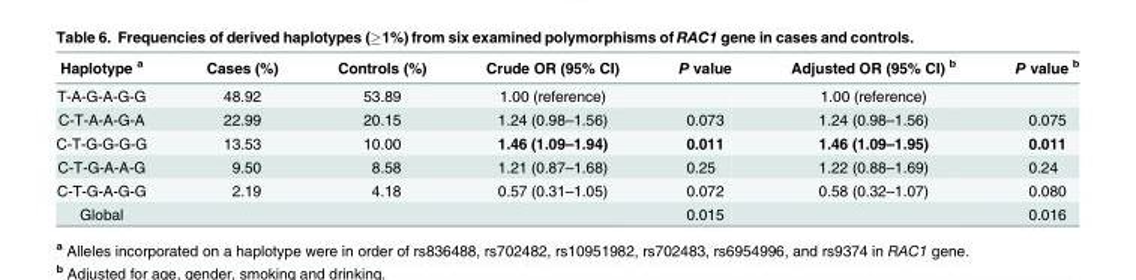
<table><thead><tr><td>Haplotype <sup>a</sup></td><td>Cases (%)</td><td>Controls (%)</td><td>Crude OR (95% CI)</td><td>P value</td><td>Adjusted OR (95% CI) <sup>b</sup></td><td>P value <sup>b</sup></td></tr></thead><tbody><tr><td>T-A-G-A-G-G</td><td>48.92</td><td>53.89</td><td>1.00 (reference)</td><td></td><td>1.00 (reference)</td><td></td></tr><tr><td>C-T-A-A-G-A</td><td>22.99</td><td>20.15</td><td>1.24 (0.98–1.56)</td><td>0.073</td><td>1.24 (0.98–1.56)</td><td>0.075</td></tr><tr><td>C-T-G-G-G-G</td><td>13.53</td><td>10.00</td><td>1.46 (1.09–1.94)</td><td>0.011</td><td>1.46 (1.09–1.95)</td><td>0.011</td></tr><tr><td>C-T-G-A-A-G</td><td>9.50</td><td>8.58</td><td>1.21 (0.87–1.68)</td><td>0.25</td><td>1.22 (0.88–1.69)</td><td>0.24</td></tr><tr><td>C-T-G-A-G-G</td><td>2.19</td><td>4.18</td><td>0.57 (0.31–1.05)</td><td>0.072</td><td>0.58 (0.32–1.07)</td><td>0.080</td></tr><tr><td>Global</td><td></td><td></td><td></td><td>0.015</td><td></td><td>0.016</td></tr></tbody></table>